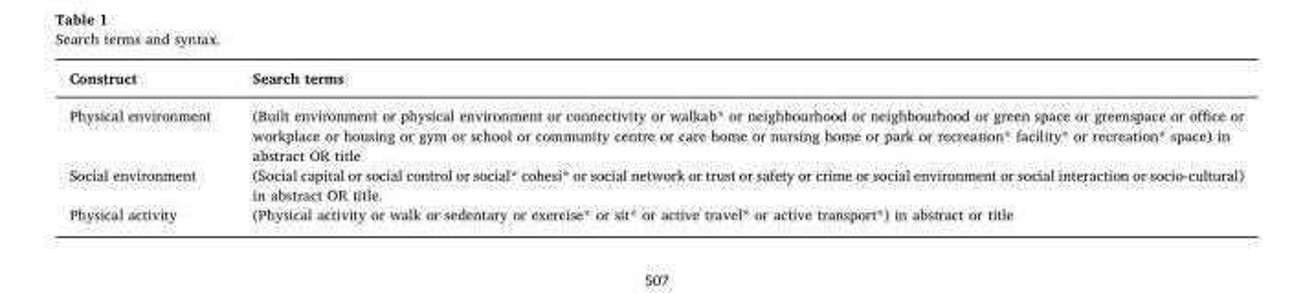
<table><thead><tr><td>Construct</td><td>Search terms</td></tr></thead><tbody><tr><td>Physical environment</td><td>(Built environment or physical environment or connectivity or walkab* or neighbourhood or neighbourhood or green space or greenspace or office or workplace or housing or gym or school or community centre or care home or nursing home or park or recreation* facility* or recreation* space) in abstract OR title</td></tr><tr><td>Social environment</td><td>(Social capital or social control or social* cohesi* or social network or trust or safety or crime or social environment or social interaction or socio-cultural) in abstract OR title.</td></tr><tr><td>Physical activity</td><td>(Physical activity or walk or sedentary or exercise* or sit* or active travel* or active transport*) in abstract or title</td></tr></tbody></table>